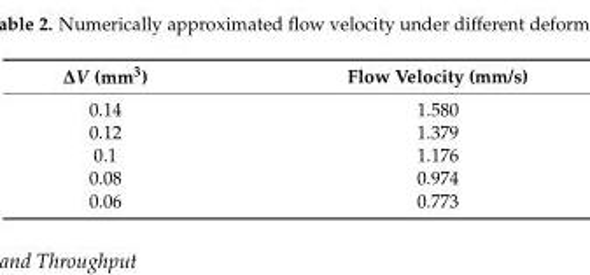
<table><thead><tr><td>∆V (mm<sup>3</sup>)</td><td>Flow Velocity (mm/s)</td></tr></thead><tbody><tr><td>0.14</td><td>1.580</td></tr><tr><td>0.12</td><td>1.379</td></tr><tr><td>0.1</td><td>1.176</td></tr><tr><td>0.08</td><td>0.974</td></tr><tr><td>0.06</td><td>0.773</td></tr></tbody></table>